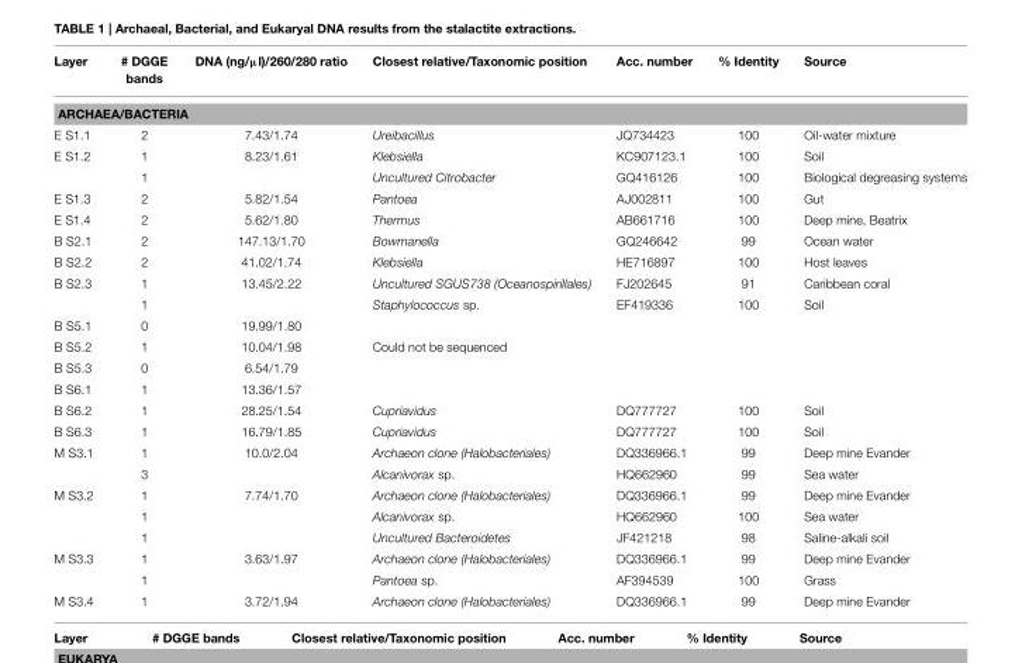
<table><thead><tr><td>Layer</td><td># DGGE bands</td><td>DNA (ng/µl)/260/280 ratio</td><td>Closest relative/Taxonomic position</td><td>Acc. number</td><td>% Identity</td><td>Source</td></tr></thead><tbody><tr><td colspan="7">ARCHAEA/BACTERIA</td></tr><tr><td>E S1.1</td><td>2</td><td>7.43/1.74</td><td>Ureibacillus</td><td>JQ734423</td><td>100</td><td>Oil-water mixture</td></tr><tr><td rowspan="2">E S1.2</td><td>1</td><td>8.23/1.61</td><td>Klebsiella</td><td>KC907123.1</td><td>100</td><td>Soil</td></tr><tr><td>1</td><td></td><td>Uncultured Citrobacter</td><td>GQ416126</td><td>100</td><td>Biological degreasing systems</td></tr><tr><td>E S1.3</td><td>2</td><td>5.82/1.54</td><td>Pantoea</td><td>AJ002811</td><td>100</td><td>Gut</td></tr><tr><td>E S1.4</td><td>2</td><td>5.62/1.80</td><td>Thermus</td><td>AB661716</td><td>100</td><td>Deep mine, Beatrix</td></tr><tr><td>B S2.1</td><td>2</td><td>147.13/1.70</td><td>Bowmanella</td><td>GQ246642</td><td>99</td><td>Ocean water</td></tr><tr><td>B S2.2</td><td>2</td><td>41.02/1.74</td><td>Klebsiella</td><td>HE716897</td><td>100</td><td>Host leaves</td></tr><tr><td rowspan="2">B S2.3</td><td>1</td><td>13.45/2.22</td><td>Uncultured SGUS738 (Oceanospirillales)</td><td>FJ202645</td><td>91</td><td>Caribbean coral</td></tr><tr><td>1</td><td></td><td>Staphylococcus sp.</td><td>EF419336</td><td>100</td><td>Soil</td></tr><tr><td>B S5.1</td><td>0</td><td>19.99/1.80</td><td></td><td></td><td></td><td></td></tr><tr><td>B S5.2</td><td>1</td><td>10.04/1.98</td><td>Could not be sequenced</td><td></td><td></td><td></td></tr><tr><td>B S5.3</td><td>0</td><td>6.54/1.79</td><td></td><td></td><td></td><td></td></tr><tr><td>B S6.1</td><td>1</td><td>13.36/1.57</td><td></td><td></td><td></td><td></td></tr><tr><td>B S6.2</td><td>1</td><td>28.25/1.54</td><td>Cupriavidus</td><td>DQ777727</td><td>100</td><td>Soil</td></tr><tr><td>B S6.3</td><td>1</td><td>16.79/1.85</td><td>Cupriavidus</td><td>DQ777727</td><td>100</td><td>Soil</td></tr><tr><td rowspan="2">M S3.1</td><td>1</td><td>10.0/2.04</td><td>Archaeon clone (Halobacteriales)</td><td>DQ336966.1</td><td>99</td><td>Deep mine Evander</td></tr><tr><td>3</td><td></td><td>Alcanivorax sp.</td><td>HQ662960</td><td>99</td><td>Sea water</td></tr><tr><td rowspan="3">M S3.2</td><td>1</td><td>7.74/1.70</td><td>Archaeon clone (Halobacteriales)</td><td>DQ336966.1</td><td>99</td><td>Deep mine Evander</td></tr><tr><td>1</td><td></td><td>Alcanivorax sp.</td><td>HQ662960</td><td>100</td><td>Sea water</td></tr><tr><td>1</td><td></td><td>Uncultured Bacteroidetes</td><td>JF421218</td><td>98</td><td>Saline-alkali soil</td></tr><tr><td rowspan="2">M S3.3</td><td>1</td><td>3.63/1.97</td><td>Archaeon clone (Halobacteriales)</td><td>DQ336966.1</td><td>99</td><td>Deep mine Evander</td></tr><tr><td>1</td><td></td><td>Pantoea sp.</td><td>AF394539</td><td>100</td><td>Grass</td></tr><tr><td>M S3.4</td><td>1</td><td>3.72/1.94</td><td>Archaeon clone (Halobacteriales)</td><td>DQ336966.1</td><td>99</td><td>Deep mine Evander</td></tr></tbody></table>